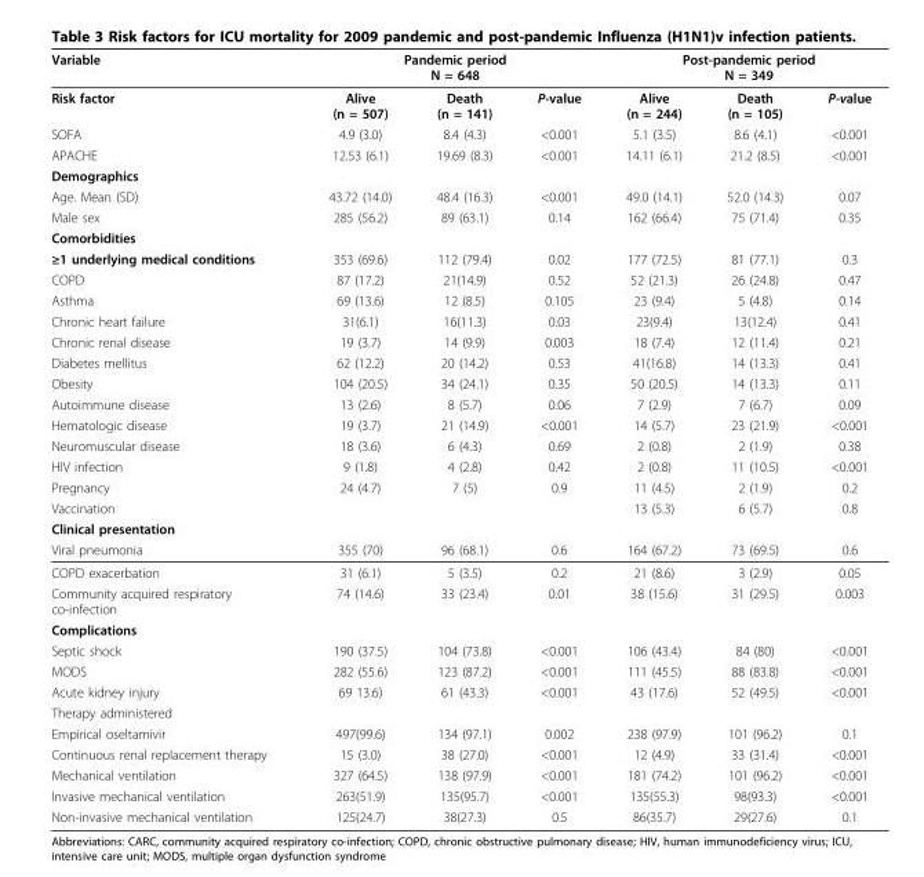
<table><thead><tr><td rowspan="2">Variable Risk factor</td><td colspan="3">Pandemic period N = 648</td><td colspan="3">Post-pandemic period N = 349</td></tr><tr><td>Alive (n = 507)</td><td>Death (n = 141)</td><td>P-value</td><td>Alive (n = 244)</td><td>Death (n = 105)</td><td>P-value</td></tr></thead><tbody><tr><td>SOFA</td><td>4.9 (3.0)</td><td>8.4 (4.3)</td><td>&lt;0.001</td><td>5.1 (3.5)</td><td>8.6 (4.1)</td><td>&lt;0.001</td></tr><tr><td>APACHE</td><td>12.53 (6.1)</td><td>19.69 (8.3)</td><td>&lt;0.001</td><td>14.11 (6.1)</td><td>21.2 (8.5)</td><td>&lt;0.001</td></tr><tr><td colspan="7">Demographics</td></tr><tr><td>Age. Mean (SD)</td><td>43.72 (14.0)</td><td>48.4 (16.3)</td><td>&lt;0.001</td><td>49.0 (14.1)</td><td>52.0 (14.3)</td><td>0.07</td></tr><tr><td>Male sex</td><td>285 (56.2)</td><td>89 (63.1)</td><td>0.14</td><td>162 (66.4)</td><td>75 (71.4)</td><td>0.35</td></tr><tr><td colspan="7">Comorbidities</td></tr><tr><td>≥1 underlying medical conditions</td><td>353 (69.6)</td><td>112 (79.4)</td><td>0.02</td><td>177 (72.5)</td><td>81 (77.1)</td><td>0.3</td></tr><tr><td>COPD</td><td>87 (17.2)</td><td>21(14.9)</td><td>0.52</td><td>52 (21.3)</td><td>26 (24.8)</td><td>0.47</td></tr><tr><td>Asthma</td><td>69 (13.6)</td><td>12 (8.5)</td><td>0.105</td><td>23 (9.4)</td><td>5 (4.8)</td><td>0.14</td></tr><tr><td>Chronic heart failure</td><td>31(6.1)</td><td>16(11.3)</td><td>0.03</td><td>23(9.4)</td><td>13(12.4)</td><td>0.41</td></tr><tr><td>Chronic renal disease</td><td>19 (3.7)</td><td>14 (9.9)</td><td>0.003</td><td>18 (7.4)</td><td>12 (11.4)</td><td>0.21</td></tr><tr><td>Diabetes mellitus</td><td>62 (12.2)</td><td>20 (14.2)</td><td>0.53</td><td>41(16.8)</td><td>14 (13.3)</td><td>0.41</td></tr><tr><td>Obesity</td><td>104 (20.5)</td><td>34 (24.1)</td><td>0.35</td><td>50 (20.5)</td><td>14 (13.3)</td><td>0.11</td></tr><tr><td>Autoimmune disease</td><td>13 (2.6)</td><td>8 (5.7)</td><td>0.06</td><td>7 (2.9)</td><td>7 (6.7)</td><td>0.09</td></tr><tr><td>Hematologic disease</td><td>19 (3.7)</td><td>21 (14.9)</td><td>&lt;0.001</td><td>14 (5.7)</td><td>23 (21.9)</td><td>&lt;0.001</td></tr><tr><td>Neuromuscular disease</td><td>18 (3.6)</td><td>6 (4.3)</td><td>0.69</td><td>2 (0.8)</td><td>2 (1.9)</td><td>0.38</td></tr><tr><td>HIV infection</td><td>9 (1.8)</td><td>4 (2.8)</td><td>0.42</td><td>2 (0.8)</td><td>11 (10.5)</td><td>&lt;0.001</td></tr><tr><td>Pregnancy</td><td>24 (4.7)</td><td>7 (5)</td><td>0.9</td><td>11 (4.5)</td><td>2 (1.9)</td><td>0.2</td></tr><tr><td>Vaccination</td><td></td><td></td><td></td><td>13 (5.3)</td><td>6 (5.7)</td><td>0.8</td></tr><tr><td colspan="7">Clinical presentation</td></tr><tr><td>Viral pneumonia</td><td>355 (70)</td><td>96 (68.1)</td><td>0.6</td><td>164 (67.2)</td><td>73 (69.5)</td><td>0.6</td></tr><tr><td>COPD exacerbation</td><td>31 (6.1)</td><td>5 (3.5)</td><td>0.2</td><td>21 (8.6)</td><td>3 (2.9)</td><td>0.05</td></tr><tr><td>Community acquired respiratory co-infection</td><td>74 (14.6)</td><td>33 (23.4)</td><td>0.01</td><td>38 (15.6)</td><td>31 (29.5)</td><td>0.003</td></tr><tr><td colspan="7">Complications</td></tr><tr><td>Septic shock</td><td>190 (37.5)</td><td>104 (73.8)</td><td>&lt;0.001</td><td>106 (43.4)</td><td>84 (80)</td><td>&lt;0.001</td></tr><tr><td>MODS</td><td>282 (55.6)</td><td>123 (87.2)</td><td>&lt;0.001</td><td>111 (45.5)</td><td>88 (83.8)</td><td>&lt;0.001</td></tr><tr><td>Acute kidney injury</td><td>69 13.6)</td><td>61 (43.3)</td><td>&lt;0.001</td><td>43 (17.6)</td><td>52 (49.5)</td><td>&lt;0.001</td></tr><tr><td colspan="7">Therapy administered</td></tr><tr><td>Empirical oseltamivir</td><td>497(99.6)</td><td>134 (97.1)</td><td>0.002</td><td>238 (97.9)</td><td>101 (96.2)</td><td>0.1</td></tr><tr><td>Continuous renal replacement therapy</td><td>15 (3.0)</td><td>38 (27.0)</td><td>&lt;0.001</td><td>12 (4.9)</td><td>33 (31.4)</td><td>&lt;0.001</td></tr><tr><td>Mechanical ventilation</td><td>327 (64.5)</td><td>138 (97.9)</td><td>&lt;0.001</td><td>181 (74.2)</td><td>101 (96.2)</td><td>&lt;0.001</td></tr><tr><td>Invasive mechanical ventilation</td><td>263(51.9)</td><td>135(95.7)</td><td>&lt;0.001</td><td>135(55.3)</td><td>98(93.3)</td><td>&lt;0.001</td></tr><tr><td>Non-invasive mechanical ventilation</td><td>125(24.7)</td><td>38(27.3)</td><td>0.5</td><td>86(35.7)</td><td>29(27.6)</td><td>0.1</td></tr></tbody></table>